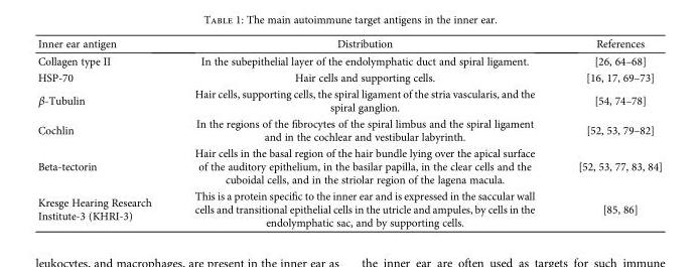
<table><thead><tr><td>Inner ear antigen</td><td>Distribution</td><td>References</td></tr></thead><tbody><tr><td>Collagen type II</td><td>In the subepithelial layer of the endolymphatic duct and spiral ligament.</td><td>[26, 64–68]</td></tr><tr><td>HSP-70</td><td>Hair cells and supporting cells.</td><td>[16, 17, 69–73]</td></tr><tr><td>β-Tubulin</td><td>Hair cells, supporting cells, the spiral ligament of the stria vascularis, and the spiral ganglion.</td><td>[54, 74–78]</td></tr><tr><td>Cochlin</td><td>In the regions of the fibrocytes of the spiral limbus and the spiral ligament and in the cochlear and vestibular labyrinth.</td><td>[52, 53, 79–82]</td></tr><tr><td>Beta-tectorin</td><td>Hair cells in the basal region of the hair bundle lying over the apical surface of the auditory epithelium, in the basilar papilla, in the clear cells and the cuboidal cells, and in the striolar region of the lagena macula.</td><td>[52, 53, 77, 83, 84]</td></tr><tr><td>Kresge Hearing Research Institute-3 (KHRI-3)</td><td>This is a protein specific to the inner ear and is expressed in the saccular wall cells and transitional epithelial cells in the utricle and ampules, by cells in the endolymphatic sac, and by supporting cells.</td><td>[85, 86]</td></tr></tbody></table>